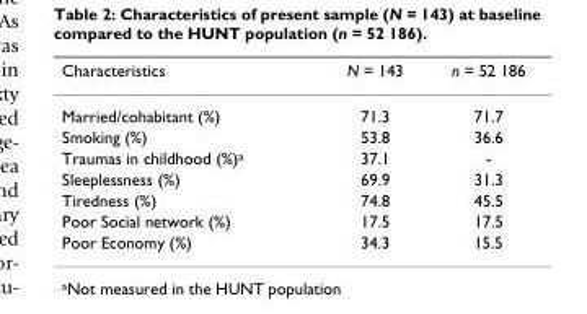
<table><thead><tr><td>Characteristics</td><td>N = 143</td><td>n = 52 186</td></tr></thead><tbody><tr><td>Married/cohabitant (%)</td><td>71.3</td><td>71.7</td></tr><tr><td>Smoking (%)</td><td>53.8</td><td>36.6</td></tr><tr><td>Traumas in childhood (%)<sup>a</sup></td><td>37.1</td><td>-</td></tr><tr><td>Sleeplessness (%)</td><td>69.9</td><td>31.3</td></tr><tr><td>Tiredness (%)</td><td>74.8</td><td>45.5</td></tr><tr><td>Poor Social network (%)</td><td>17.5</td><td>17.5</td></tr><tr><td>Poor Economy (%)</td><td>34.3</td><td>15.5</td></tr></tbody></table>